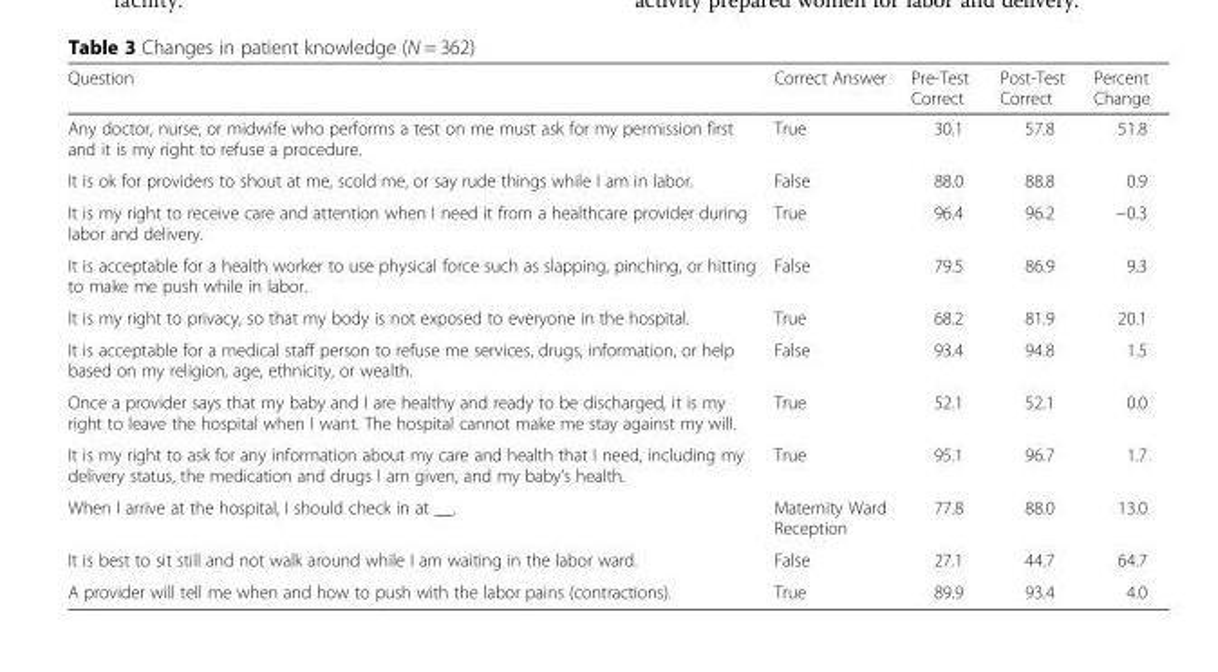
<table><thead><tr><td>Question</td><td>Correct Answer</td><td>Pre-Test Correct</td><td>Post-Test Correct</td><td>Percent Change</td></tr></thead><tbody><tr><td>Any doctor, nurse, or midwife who performs a test on me must ask for my permission first and it is my right to refuse a procedure.</td><td>True</td><td>30.1</td><td>57.8</td><td>51.8</td></tr><tr><td>It is ok for providers to shout at me, scold me, or say rude things while I am in labor.</td><td>False</td><td>88.0</td><td>88.8</td><td>0.9</td></tr><tr><td>It is my right to receive care and attention when I need it from a healthcare provider during labor and delivery.</td><td>True</td><td>96.4</td><td>96.2</td><td>−0.3</td></tr><tr><td>It is acceptable for a health worker to use physical force such as slapping, pinching, or hitting to make me push while in labor.</td><td>False</td><td>79.5</td><td>86.9</td><td>9.3</td></tr><tr><td>It is my right to privacy, so that my body is not exposed to everyone in the hospital.</td><td>True</td><td>68.2</td><td>81.9</td><td>20.1</td></tr><tr><td>It is acceptable for a medical staff person to refuse me services, drugs, information, or help based on my religion, age, ethnicity, or wealth.</td><td>False</td><td>93.4</td><td>94.8</td><td>1.5</td></tr><tr><td>Once a provider says that my baby and I are healthy and ready to be discharged, it is my right to leave the hospital when I want. The hospital cannot make me stay against my will.</td><td>True</td><td>52.1</td><td>52.1</td><td>0.0</td></tr><tr><td>It is my right to ask for any information about my care and health that I need, including my delivery status, the medication and drugs I am given, and my baby’s health.</td><td>True</td><td>95.1</td><td>96.7</td><td>1.7</td></tr><tr><td>When I arrive at the hospital, I should check in at __.</td><td>Maternity Ward Reception</td><td>77.8</td><td>88.0</td><td>13.0</td></tr><tr><td>It is best to sit still and not walk around while I am waiting in the labor ward.</td><td>False</td><td>27.1</td><td>44.7</td><td>64.7</td></tr><tr><td>A provider will tell me when and how to push with the labor pains (contractions).</td><td>True</td><td>89.9</td><td>93.4</td><td>4.0</td></tr></tbody></table>